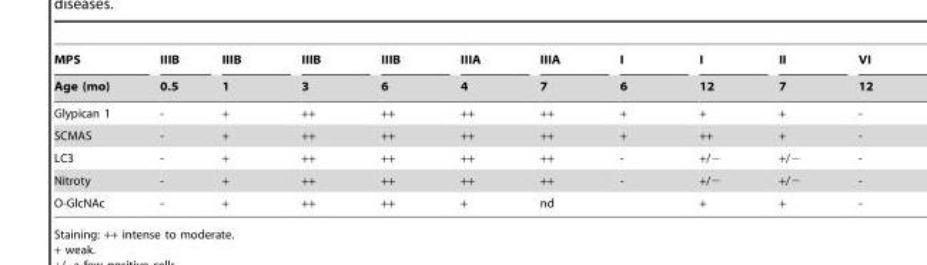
<table><thead><tr><td rowspan="2">MPS Age (mo)</td><td rowspan="2">IIIB 0.5</td><td rowspan="2">IIIB 1</td><td rowspan="2">IIIB 3</td><td rowspan="2">IIIB 6</td><td rowspan="2">IIIA 4</td><td rowspan="2">IIIA 7</td><td rowspan="2">I 6</td><td rowspan="2">I 12</td><td rowspan="2">II 7</td><td rowspan="2">VI 12</td></tr><tr></tr></thead><tbody><tr><td>Glypican 1</td><td>-</td><td>+</td><td>++</td><td>++</td><td>++</td><td>++</td><td>+</td><td>+</td><td>+</td><td>-</td></tr><tr><td>SCMAS</td><td>-</td><td>+</td><td>++</td><td>++</td><td>++</td><td>++</td><td>+</td><td>++</td><td>+</td><td>-</td></tr><tr><td>LC3</td><td>-</td><td>+</td><td>++</td><td>++</td><td>++</td><td>++</td><td>-</td><td>+/−</td><td>+/−</td><td>-</td></tr><tr><td>Nitroty</td><td>-</td><td>+</td><td>++</td><td>++</td><td>++</td><td>++</td><td>-</td><td>+/−</td><td>+/−</td><td>-</td></tr><tr><td>O-GlcNAc</td><td>-</td><td>+</td><td>++</td><td>++</td><td>+</td><td>nd</td><td></td><td>+</td><td>+</td><td>-</td></tr></tbody></table>